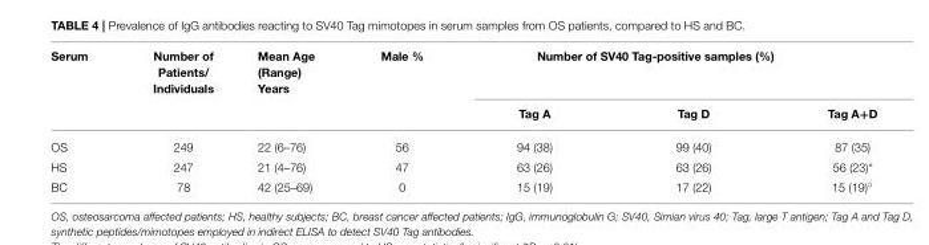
<table><thead><tr><td rowspan="2">Serum</td><td rowspan="2">Number of Patients/ Individuals</td><td rowspan="2">Mean Age (Range) Years</td><td rowspan="2">Male %</td><td colspan="3">Number of SV40 Tag-positive samples (%)</td></tr><tr><td>Tag A</td><td>Tag D</td><td>Tag A+D</td></tr></thead><tbody><tr><td>OS</td><td>249</td><td>22 (6–76)</td><td>56</td><td>94 (38)</td><td>99 (40)</td><td>87 (35)</td></tr><tr><td>HS</td><td>247</td><td>21 (4–76)</td><td>47</td><td>63 (26)</td><td>63 (26)</td><td>56 (23)*</td></tr><tr><td>BC</td><td>78</td><td>42 (25–69)</td><td>0</td><td>15 (19)</td><td>17 (22)</td><td>15 (19)◦</td></tr></tbody></table>